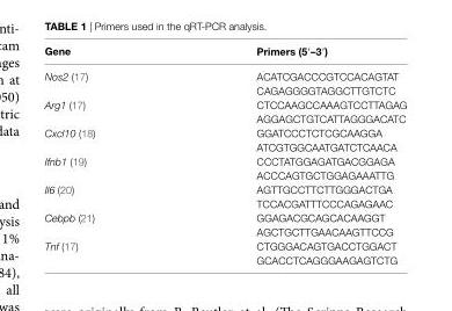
<table><thead><tr><td>gene</td><td>Primers (5′–3′)</td></tr></thead><tbody><tr><td rowspan="2">Nos2 (17)</td><td>ACATCGACCCGTCCACAGTAT</td></tr><tr><td>CAGAGGGGTAGGCTTGTCTC</td></tr><tr><td rowspan="2">Arg1 (17)</td><td>CTCCAAGCCAAAGTCCTTAGAG</td></tr><tr><td>AGGAGCTGTCATTAGGGACATC</td></tr><tr><td rowspan="2">Cxcl10 (18)</td><td>GGATCCCTCTCGCAAGGA</td></tr><tr><td>ATCGTGGCAATGATCTCAACA</td></tr><tr><td rowspan="2">Ifnb1 (19)</td><td>CCCTATGGAGATGACGGAGA</td></tr><tr><td>ACCCAGTGCTGGAGAAATTG</td></tr><tr><td rowspan="2">Il6 (20)</td><td>AGTTGCCTTCTTGGGACTGA</td></tr><tr><td>TCCACGATTTCCCAGAGAAC</td></tr><tr><td rowspan="2">Cebpb (21)</td><td>GGAGACGCAGCACAAGGT</td></tr><tr><td>AGCTGCTTGAACAAGTTCCG</td></tr><tr><td rowspan="2">Tnf (17)</td><td>CTGGGACAGTGACCTGGACT</td></tr><tr><td>GCACCTCAGGGAAGAGTCTG</td></tr></tbody></table>